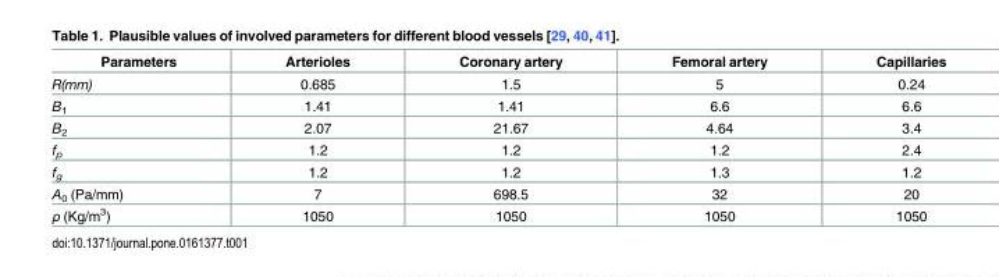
<table><thead><tr><td>Parameters</td><td>Arterioles</td><td>Coronary artery</td><td>Femoral artery</td><td>Capillaries</td></tr></thead><tbody><tr><td>R(mm)</td><td>0.685</td><td>1.5</td><td>5</td><td>0.24</td></tr><tr><td>B<sub>1</sub></td><td>1.41</td><td>1.41</td><td>6.6</td><td>6.6</td></tr><tr><td>B<sub>2</sub></td><td>2.07</td><td>21.67</td><td>4.64</td><td>3.4</td></tr><tr><td>f<sub>p</sub></td><td>1.2</td><td>1.2</td><td>1.2</td><td>2.4</td></tr><tr><td>f<sub>g</sub></td><td>1.2</td><td>1.2</td><td>1.3</td><td>1.2</td></tr><tr><td>A<sub>0</sub> (Pa/mm)</td><td>7</td><td>698.5</td><td>32</td><td>20</td></tr><tr><td>ρ (Kg/m<sup>3</sup>)</td><td>1050</td><td>1050</td><td>1050</td><td>1050</td></tr></tbody></table>